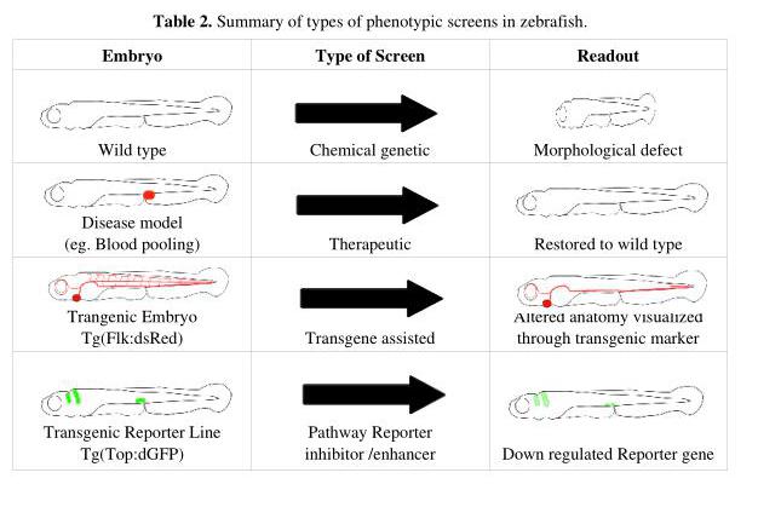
<table><thead><tr><td>Embryo</td><td>Type of Screen</td><td>Readout</td></tr></thead><tbody><tr><td>Wild type</td><td>Chemical genetic</td><td>Morphological defect</td></tr><tr><td>Disease model (eg. Blood pooling)</td><td>Therapeutic</td><td>Restored to wild type</td></tr><tr><td>Trangenic Embryo Tg(Flk:dsRed)</td><td>Transgene assisted</td><td>Altered anatomy visualized through transgenic marker</td></tr><tr><td>Transgenic Reporter Line Tg(Top:dGFP)</td><td>Pathway Reporter inhibitor /enhancer</td><td>Down regulated Reporter gene</td></tr></tbody></table>